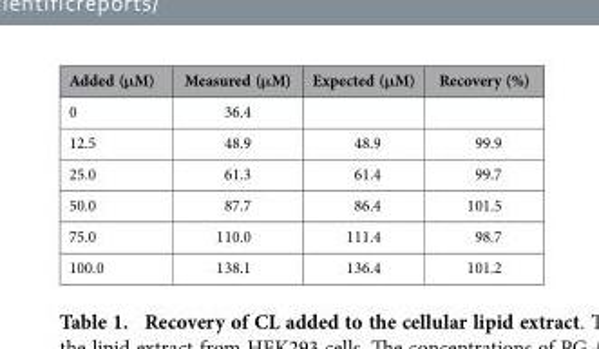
<table><thead><tr><td>Added (μM)</td><td>Measured (μM)</td><td>Expected (μM)</td><td>Recovery (%)</td></tr></thead><tbody><tr><td>0</td><td>36.4</td><td></td><td></td></tr><tr><td>12.5</td><td>48.9</td><td>48.9</td><td>99.9</td></tr><tr><td>25.0</td><td>61.3</td><td>61.4</td><td>99.7</td></tr><tr><td>50.0</td><td>87.7</td><td>86.4</td><td>101.5</td></tr><tr><td>75.0</td><td>110.0</td><td>111.4</td><td>98.7</td></tr><tr><td>100.0</td><td>138.1</td><td>136.4</td><td>101.2</td></tr></tbody></table>